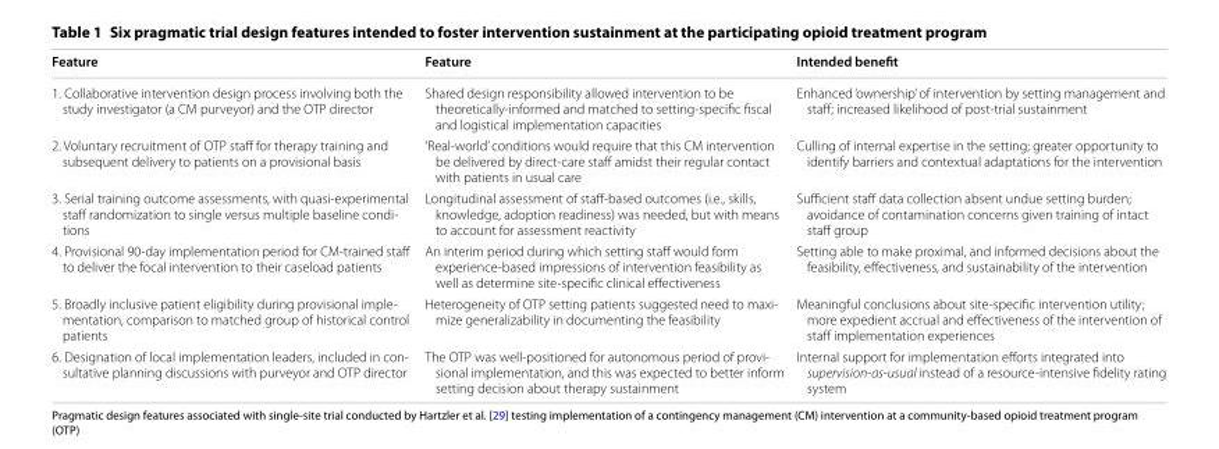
<table><thead><tr><td>Feature</td><td>Feature</td><td>Intended benefit</td></tr></thead><tbody><tr><td>1. Collaborative intervention design process involving both the study investigator (a CM purveyor) and the OTP director</td><td>Shared design responsibility allowed intervention to be theoretically-informed and matched to setting-specific fiscal and logistical implementation capacities</td><td>Enhanced ‘ownership’ of intervention by setting management and staff; increased likelihood of post-trial sustainment</td></tr><tr><td>2. Voluntary recruitment of OTP staff for therapy training and subsequent delivery to patients on a provisional basis</td><td>‘Real-world’ conditions would require that this CM intervention be delivered by direct-care staff amidst their regular contact with patients in usual care</td><td>Culling of internal expertise in the setting; greater opportunity to identify barriers and contextual adaptations for the intervention</td></tr><tr><td>3. Serial training outcome assessments, with quasi-experimental staff randomization to single versus multiple baseline condi- tions</td><td>Longitudinal assessment of staff-based outcomes (i.e., skills, knowledge, adoption readiness) was needed, but with means to account for assessment reactivity</td><td>Sufficient staff data collection absent undue setting burden; avoidance of contamination concerns given training of intact staff group</td></tr><tr><td>4. Provisional 90-day implementation period for CM-trained staff to deliver the focal intervention to their caseload patients</td><td>An interim period during which setting staff would form experience-based impressions of intervention feasibility as well as determine site-specific clinical effectiveness</td><td>Setting able to make proximal, and informed decisions about the feasibility, effectiveness, and sustainability of the intervention</td></tr><tr><td>5. Broadly inclusive patient eligibility during provisional imple- mentation, comparison to matched group of historical control patients</td><td>Heterogeneity of OTP setting patients suggested need to maxi- mize generalizability in documenting the feasibility</td><td>Meaningful conclusions about site-specific intervention utility; more expedient accrual and effectiveness of the intervention of staff implementation experiences</td></tr><tr><td>6. Designation of local implementation leaders, included in con- sultative planning discussions with purveyor and OTP director</td><td>The OTP was well-positioned for autonomous period of provi- sional implementation, and this was expected to better inform setting decision about therapy sustainment</td><td>Internal support for implementation efforts integrated into supervision-as-usual instead of a resource-intensive fidelity rating system</td></tr></tbody></table>